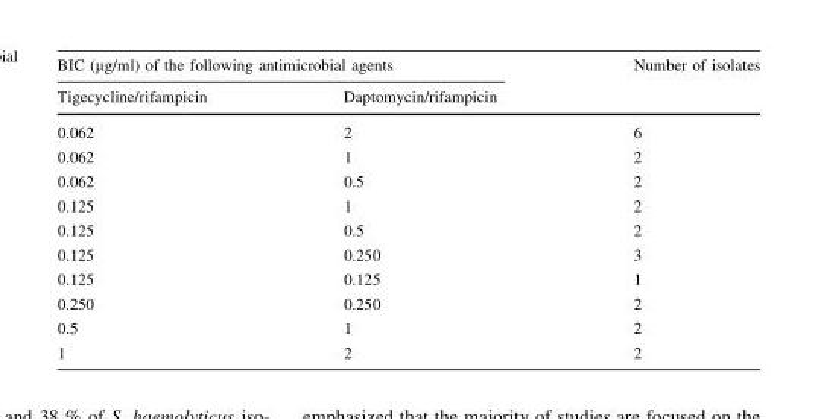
<table><thead><tr><td colspan="2">BIC (µg/ml) of the following antimicrobial agents</td><td rowspan="2">Number of isolates</td></tr><tr><td>Tigecycline/rifampicin</td><td>Daptomycin/rifampicin</td></tr></thead><tbody><tr><td>0.062</td><td>2</td><td>6</td></tr><tr><td>0.062</td><td>1</td><td>2</td></tr><tr><td>0.062</td><td>0.5</td><td>2</td></tr><tr><td>0.125</td><td>1</td><td>2</td></tr><tr><td>0.125</td><td>0.5</td><td>2</td></tr><tr><td>0.125</td><td>0.250</td><td>3</td></tr><tr><td>0.125</td><td>0.125</td><td>1</td></tr><tr><td>0.250</td><td>0.250</td><td>2</td></tr><tr><td>0.5</td><td>1</td><td>2</td></tr><tr><td>1</td><td>2</td><td>2</td></tr></tbody></table>